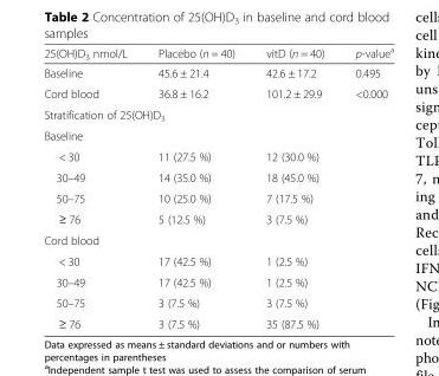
<table><thead><tr><td>25(OH)D<sub>3</sub> nmol/L</td><td>Placebo (n = 40)</td><td>vitD (n = 40)</td><td>p-value<sup>a</sup></td></tr></thead><tbody><tr><td>Baseline</td><td>45.6 ± 21.4</td><td>42.6 ± 17.2</td><td>0.495</td></tr><tr><td>Cord blood</td><td>36.8 ± 16.2</td><td>101.2 ± 29.9</td><td>&lt;0.000</td></tr><tr><td colspan="4">Stratification of 25(OH)D<sub>3</sub></td></tr><tr><td colspan="4">Baseline</td></tr><tr><td>&lt; 30</td><td>11 (27.5 %)</td><td>12 (30.0 %)</td><td></td></tr><tr><td>30–49</td><td>14 (35.0 %)</td><td>18 (45.0 %)</td><td></td></tr><tr><td>50–75</td><td>10 (25.0 %)</td><td>7 (17.5 %)</td><td></td></tr><tr><td>≥ 76</td><td>5 (12.5 %)</td><td>3 (7.5 %)</td><td></td></tr><tr><td colspan="4">Cord blood</td></tr><tr><td>&lt; 30</td><td>17 (42.5 %)</td><td>1 (2.5 %)</td><td></td></tr><tr><td>30–49</td><td>17 (42.5 %)</td><td>1 (2.5 %)</td><td></td></tr><tr><td>50–75</td><td>3 (7.5 %)</td><td>3 (7.5 %)</td><td></td></tr><tr><td>≥ 76</td><td>3 (7.5 %)</td><td>35 (87.5 %)</td><td></td></tr></tbody></table>